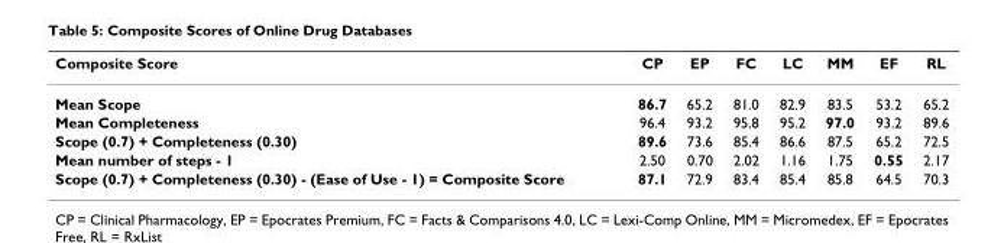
<table><thead><tr><td>Composite Score</td><td>CP</td><td>EP</td><td>FC</td><td>LC</td><td>MM</td><td>EF</td><td>RL</td></tr></thead><tbody><tr><td>Mean Scope</td><td>86.7</td><td>65.2</td><td>81.0</td><td>82.9</td><td>83.5</td><td>53.2</td><td>65.2</td></tr><tr><td>Mean Completeness</td><td>96.4</td><td>93.2</td><td>95.8</td><td>95.2</td><td>97.0</td><td>93.2</td><td>89.6</td></tr><tr><td>Scope (0.7) + Completeness (0.30)</td><td>89.6</td><td>73.6</td><td>85.4</td><td>86.6</td><td>87.5</td><td>65.2</td><td>72.5</td></tr><tr><td>Mean number of steps - 1</td><td>2.50</td><td>0.70</td><td>2.02</td><td>1.16</td><td>1.75</td><td>0.55</td><td>2.17</td></tr><tr><td>Scope (0.7) + Completeness (0.30) - (Ease of Use - 1) = Composite Score</td><td>87.1</td><td>72.9</td><td>83.4</td><td>85.4</td><td>85.8</td><td>64.5</td><td>70.3</td></tr></tbody></table>